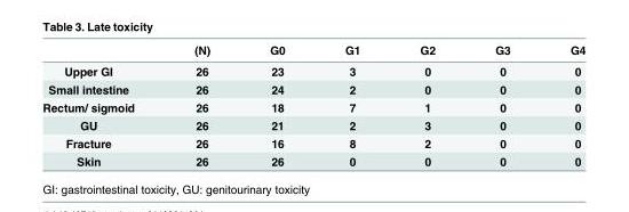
<table><thead><tr><td></td><td>(N)</td><td>G0</td><td>G1</td><td>G2</td><td>G3</td><td>G4</td></tr></thead><tbody><tr><td>Upper GI</td><td>26</td><td>23</td><td>3</td><td>0</td><td>0</td><td>0</td></tr><tr><td>Small intestine</td><td>26</td><td>24</td><td>2</td><td>0</td><td>0</td><td>0</td></tr><tr><td>Rectum/ sigmoid</td><td>26</td><td>18</td><td>7</td><td>1</td><td>0</td><td>0</td></tr><tr><td>GU</td><td>26</td><td>21</td><td>2</td><td>3</td><td>0</td><td>0</td></tr><tr><td>Fracture</td><td>26</td><td>16</td><td>8</td><td>2</td><td>0</td><td>0</td></tr><tr><td>Skin</td><td>26</td><td>26</td><td>0</td><td>0</td><td>0</td><td>0</td></tr></tbody></table>